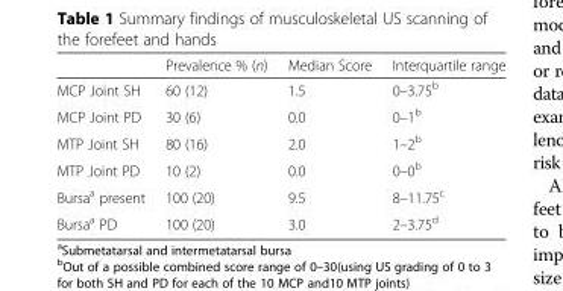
<table><thead><tr><td></td><td>Prevalence % (n)</td><td>Median Score</td><td>Interquartile range</td></tr></thead><tbody><tr><td>MCP Joint SH</td><td>60 (12)</td><td>1.5</td><td>0–3.75<sup>b</sup></td></tr><tr><td>MCP Joint PD</td><td>30 (6)</td><td>0.0</td><td>0–1<sup>b</sup></td></tr><tr><td>MTP Joint SH</td><td>80 (16)</td><td>2.0</td><td>1–2<sup>b</sup></td></tr><tr><td>MTP Joint PD</td><td>10 (2)</td><td>0.0</td><td>0–0<sup>b</sup></td></tr><tr><td>Bursa<sup>a</sup> present</td><td>100 (20)</td><td>9.5</td><td>8–11.75<sup>c</sup></td></tr><tr><td>Bursa<sup>a</sup> PD</td><td>100 (20)</td><td>3.0</td><td>2–3.75<sup>d</sup></td></tr></tbody></table>